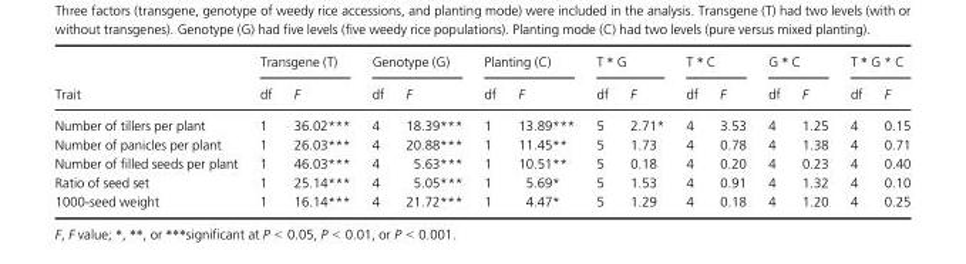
<table><thead><tr><td rowspan="2">Trait</td><td colspan="2">Transgene (T)</td><td colspan="2">Genotype (G)</td><td colspan="2">Planting (C)</td><td colspan="2">T * G</td><td colspan="2">T * C</td><td colspan="2">G * C</td><td colspan="2">T * G * C</td></tr><tr><td>df</td><td>F</td><td>df</td><td>F</td><td>df</td><td>F</td><td>df</td><td>F</td><td>df</td><td>F</td><td>df</td><td>F</td><td>df</td><td>F</td></tr></thead><tbody><tr><td>Number of tillers per plant</td><td>1</td><td>36.02***</td><td>4</td><td>18.39***</td><td>1</td><td>13.89***</td><td>5</td><td>2.71*</td><td>4</td><td>3.53</td><td>4</td><td>1.25</td><td>4</td><td>0.15</td></tr><tr><td>Number of panicles per plant</td><td>1</td><td>26.03***</td><td>4</td><td>20.88***</td><td>1</td><td>11.45**</td><td>5</td><td>1.73</td><td>4</td><td>0.78</td><td>4</td><td>1.38</td><td>4</td><td>0.71</td></tr><tr><td>Number of filled seeds per plant</td><td>1</td><td>46.03***</td><td>4</td><td>5.63***</td><td>1</td><td>10.51**</td><td>5</td><td>0.18</td><td>4</td><td>0.20</td><td>4</td><td>0.23</td><td>4</td><td>0.40</td></tr><tr><td>Ratio of seed set</td><td>1</td><td>25.14***</td><td>4</td><td>5.05***</td><td>1</td><td>5.69*</td><td>5</td><td>1.53</td><td>4</td><td>0.91</td><td>4</td><td>1.32</td><td>4</td><td>0.10</td></tr><tr><td>1000-seed weight</td><td>1</td><td>16.14***</td><td>4</td><td>21.72***</td><td>1</td><td>4.47*</td><td>5</td><td>1.29</td><td>4</td><td>0.18</td><td>4</td><td>1.20</td><td>4</td><td>0.25</td></tr></tbody></table>